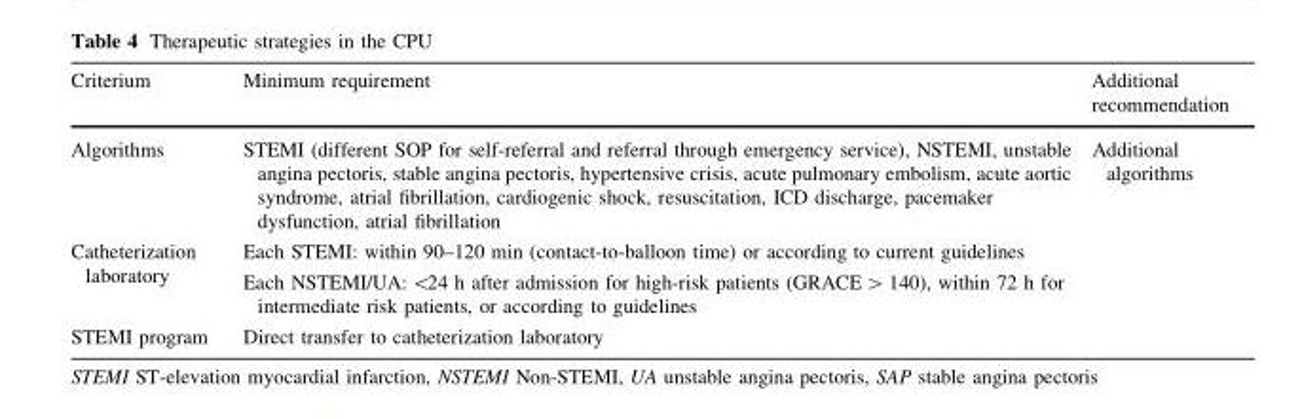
<table><thead><tr><td>Criterium</td><td>Minimum requirement</td><td>Additional recommendation</td></tr></thead><tbody><tr><td>Algorithms</td><td>STEMI (different SOP for self-referral and referral through emergency service), NSTEMI, unstable angina pectoris, stable angina pectoris, hypertensive crisis, acute pulmonary embolism, acute aortic syndrome, atrial fibrillation, cardiogenic shock, resuscitation, ICD discharge, pacemaker dysfunction, atrial fibrillation</td><td>Additional algorithms</td></tr><tr><td>Catheterization laboratory</td><td>Each STEMI: within 90–120 min (contact-to-balloon time) or according to current guidelines Each NSTEMI/UA: &lt;24 h after admission for high-risk patients (GRACE &gt; 140), within 72 h for intermediate risk patients, or according to guidelines</td><td></td></tr><tr><td>STEMI program</td><td>Direct transfer to catheterization laboratory</td><td></td></tr></tbody></table>